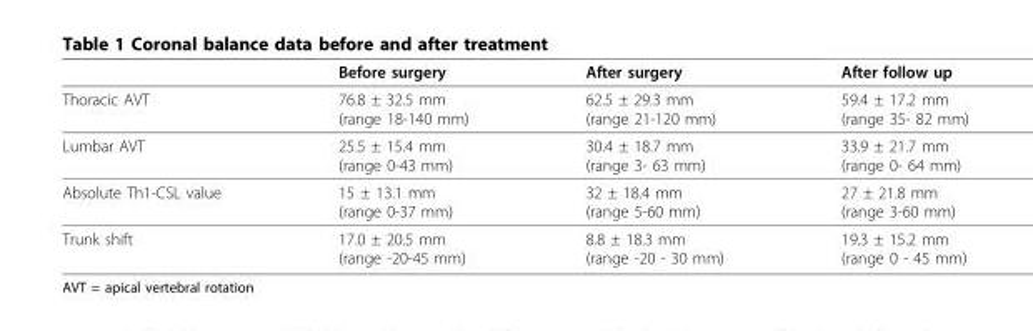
<table><thead><tr><td></td><td>Before surgery</td><td>After surgery</td><td>After follow up</td></tr></thead><tbody><tr><td>Thoracic AVT</td><td>76.8 ± 32.5 mm (range 18-140 mm)</td><td>62.5 ± 29.3 mm (range 21-120 mm)</td><td>59.4 ± 17.2 mm (range 35- 82 mm)</td></tr><tr><td>Lumbar AVT</td><td>25.5 ± 15.4 mm (range 0-43 mm)</td><td>30.4 ± 18.7 mm (range 3- 63 mm)</td><td>33.9 ± 21.7 mm (range 0- 64 mm)</td></tr><tr><td>Absolute Th1-CSL value</td><td>15 ± 13.1 mm (range 0-37 mm)</td><td>32 ± 18.4 mm (range 5-60 mm)</td><td>27 ± 21.8 mm (range 3-60 mm)</td></tr><tr><td>Trunk shift</td><td>17.0 ± 20.5 mm (range -20-45 mm)</td><td>8.8 ± 18.3 mm (range -20 - 30 mm)</td><td>19.3 ± 15.2 mm (range 0 - 45 mm)</td></tr></tbody></table>